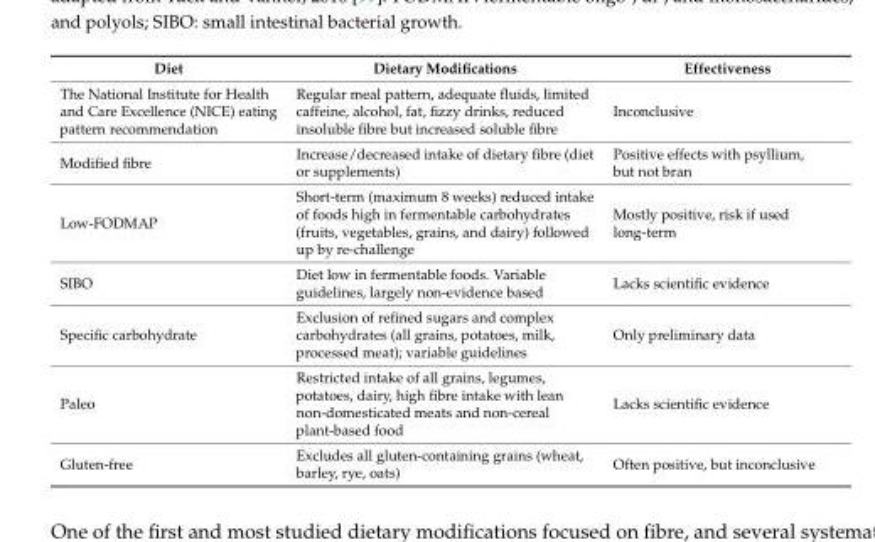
<table><thead><tr><td>Diet</td><td>Dietary Modifications</td><td>Effectiveness</td></tr></thead><tbody><tr><td>The National Institute for Health and Care Excellence (NICE) eating pattern recommendation</td><td>Regular meal pattern, adequate fluids, limited caffeine, alcohol, fat, fizzy drinks, reduced insoluble fibre but increased soluble fibre</td><td>Inconclusive</td></tr><tr><td>Modified fibre</td><td>Increase/decreased intake of dietary fibre (diet or supplements)</td><td>Positive effects with psyllium, but not bran</td></tr><tr><td>Low-FODMAP</td><td>Short-term (maximum 8 weeks) reduced intake of foods high in fermentable carbohydrates (fruits, vegetables, grains, and dairy) followed up by re-challenge</td><td>Mostly positive, risk if used long-term</td></tr><tr><td>SIBO</td><td>Diet low in fermentable foods. Variable guidelines, largely non-evidence based</td><td>Lacks scientific evidence</td></tr><tr><td>Specific carbohydrate</td><td>Exclusion of refined sugars and complex carbohydrates (all grains, potatoes, milk, processed meat); variable guidelines</td><td>Only preliminary data</td></tr><tr><td>Paleo</td><td>Restricted intake of all grains, legumes, potatoes, dairy, high fibre intake with lean non-domesticated meats and non-cereal plant-based food</td><td>Lacks scientific evidence</td></tr><tr><td>Gluten-free</td><td>Excludes all gluten-containing grains (wheat, barley, rye, oats)</td><td>Often positive, but inconclusive</td></tr></tbody></table>